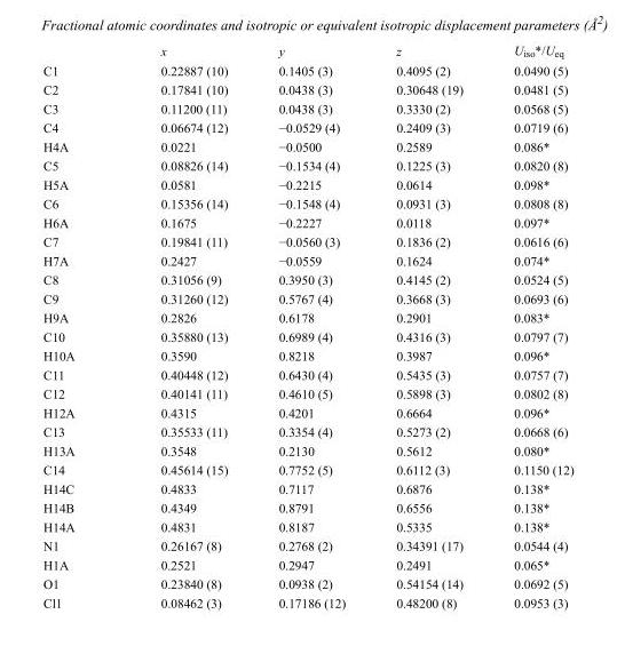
<table><thead><tr><td></td><td>x</td><td>y</td><td>z</td><td>U<sub>iso</sub>*/U<sub>eq</sub></td></tr></thead><tbody><tr><td>C1</td><td>0.22887 (10)</td><td>0.1405 (3)</td><td>0.4095 (2)</td><td>0.0490 (5)</td></tr><tr><td>C2</td><td>0.17841 (10)</td><td>0.0438 (3)</td><td>0.30648 (19)</td><td>0.0481 (5)</td></tr><tr><td>C3</td><td>0.11200 (11)</td><td>0.0438 (3)</td><td>0.3330 (2)</td><td>0.0568 (5)</td></tr><tr><td>C4</td><td>0.06674 (12)</td><td>−0.0529 (4)</td><td>0.2409 (3)</td><td>0.0719 (6)</td></tr><tr><td>H4A</td><td>0.0221</td><td>−0.0500</td><td>0.2589</td><td>0.086*</td></tr><tr><td>C5</td><td>0.08826 (14)</td><td>−0.1534 (4)</td><td>0.1225 (3)</td><td>0.0820 (8)</td></tr><tr><td>H5A</td><td>0.0581</td><td>−0.2215</td><td>0.0614</td><td>0.098*</td></tr><tr><td>C6</td><td>0.15356 (14)</td><td>−0.1548 (4)</td><td>0.0931 (3)</td><td>0.0808 (8)</td></tr><tr><td>H6A</td><td>0.1675</td><td>−0.2227</td><td>0.0118</td><td>0.097*</td></tr><tr><td>C7</td><td>0.19841 (11)</td><td>−0.0560 (3)</td><td>0.1836 (2)</td><td>0.0616 (6)</td></tr><tr><td>H7A</td><td>0.2427</td><td>−0.0559</td><td>0.1624</td><td>0.074*</td></tr><tr><td>C8</td><td>0.31056 (9)</td><td>0.3950 (3)</td><td>0.4145 (2)</td><td>0.0524 (5)</td></tr><tr><td>C9</td><td>0.31260 (12)</td><td>0.5767 (4)</td><td>0.3668 (3)</td><td>0.0693 (6)</td></tr><tr><td>H9A</td><td>0.2826</td><td>0.6178</td><td>0.2901</td><td>0.083*</td></tr><tr><td>C10</td><td>0.35880 (13)</td><td>0.6989 (4)</td><td>0.4316 (3)</td><td>0.0797 (7)</td></tr><tr><td>H10A</td><td>0.3590</td><td>0.8218</td><td>0.3987</td><td>0.096*</td></tr><tr><td>C11</td><td>0.40448 (12)</td><td>0.6430 (4)</td><td>0.5435 (3)</td><td>0.0757 (7)</td></tr><tr><td>C12</td><td>0.40141 (11)</td><td>0.4610 (5)</td><td>0.5898 (3)</td><td>0.0802 (8)</td></tr><tr><td>H12A</td><td>0.4315</td><td>0.4201</td><td>0.6664</td><td>0.096*</td></tr><tr><td>C13</td><td>0.35533 (11)</td><td>0.3354 (4)</td><td>0.5273 (2)</td><td>0.0668 (6)</td></tr><tr><td>H13A</td><td>0.3548</td><td>0.2130</td><td>0.5612</td><td>0.080*</td></tr><tr><td>C14</td><td>0.45614 (15)</td><td>0.7752 (5)</td><td>0.6112 (3)</td><td>0.1150 (12)</td></tr><tr><td>H14C</td><td>0.4833</td><td>0.7117</td><td>0.6876</td><td>0.138*</td></tr><tr><td>H14B</td><td>0.4349</td><td>0.8791</td><td>0.6556</td><td>0.138*</td></tr><tr><td>H14A</td><td>0.4831</td><td>0.8187</td><td>0.5335</td><td>0.138*</td></tr><tr><td>N1</td><td>0.26167 (8)</td><td>0.2768 (2)</td><td>0.34391 (17)</td><td>0.0544 (4)</td></tr><tr><td>H1A</td><td>0.2521</td><td>0.2947</td><td>0.2491</td><td>0.065*</td></tr><tr><td>O1</td><td>0.23840 (8)</td><td>0.0938 (2)</td><td>0.54154 (14)</td><td>0.0692 (5)</td></tr><tr><td>Cl1</td><td>0.08462 (3)</td><td>0.17186 (12)</td><td>0.48200 (8)</td><td>0.0953 (3)</td></tr></tbody></table>